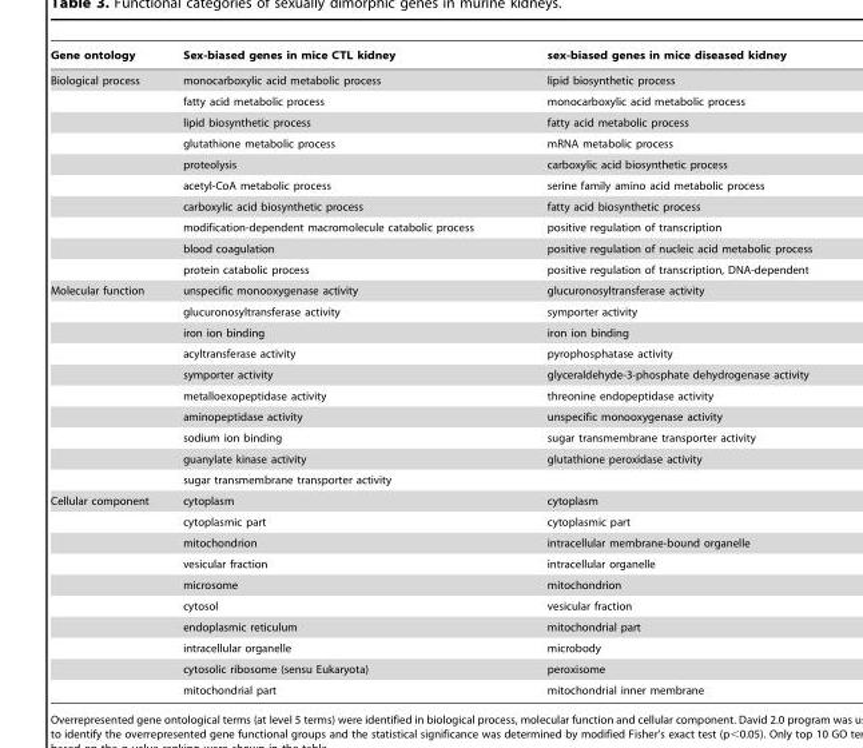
<table><thead><tr><td>Gene ontology</td><td>Sex-biased genes in mice CTL kidney</td><td>sex-biased genes in mice diseased kidney</td></tr></thead><tbody><tr><td rowspan="10">Biological process</td><td>monocarboxylic acid metabolic process</td><td>lipid biosynthetic process</td></tr><tr><td>fatty acid metabolic process</td><td>monocarboxylic acid metabolic process</td></tr><tr><td>lipid biosynthetic process</td><td>fatty acid metabolic process</td></tr><tr><td>glutathione metabolic process</td><td>mRNA metabolic process</td></tr><tr><td>proteolysis</td><td>carboxylic acid biosynthetic process</td></tr><tr><td>acetyl-CoA metabolic process</td><td>serine family amino acid metabolic process</td></tr><tr><td>carboxylic acid biosynthetic process</td><td>fatty acid biosynthetic process</td></tr><tr><td>modification-dependent macromolecule catabolic process</td><td>positive regulation of transcription</td></tr><tr><td>blood coagulation</td><td>positive regulation of nucleic acid metabolic process</td></tr><tr><td>protein catabolic process</td><td>positive regulation of transcription, DNA-dependent</td></tr><tr><td rowspan="10">Molecular function</td><td>unspecific monooxygenase activity</td><td>glucuronosyltransferase activity</td></tr><tr><td>glucuronosyltransferase activity</td><td>symporter activity</td></tr><tr><td>iron ion binding</td><td>iron ion binding</td></tr><tr><td>acyltransferase activity</td><td>pyrophosphatase activity</td></tr><tr><td>symporter activity</td><td>glyceraldehyde-3-phosphate dehydrogenase activity</td></tr><tr><td>metalloexopeptidase activity</td><td>threonine endopeptidase activity</td></tr><tr><td>aminopeptidase activity</td><td>unspecific monooxygenase activity</td></tr><tr><td>sodium ion binding</td><td>sugar transmembrane transporter activity</td></tr><tr><td>guanylate kinase activity</td><td>glutathione peroxidase activity</td></tr><tr><td>sugar transmembrane transporter activity</td><td></td></tr><tr><td rowspan="10">Cellular component</td><td>cytoplasm</td><td>cytoplasm</td></tr><tr><td>cytoplasmic part</td><td>cytoplasmic part</td></tr><tr><td>mitochondrion</td><td>intracellular membrane-bound organelle</td></tr><tr><td>vesicular fraction</td><td>intracellular organelle</td></tr><tr><td>microsome</td><td>mitochondrion</td></tr><tr><td>cytosol</td><td>vesicular fraction</td></tr><tr><td>endoplasmic reticulum</td><td>mitochondrial part</td></tr><tr><td>intracellular organelle</td><td>microbody</td></tr><tr><td>cytosolic ribosome (sensu Eukaryota)</td><td>peroxisome</td></tr><tr><td>mitochondrial part</td><td>mitochondrial inner membrane</td></tr></tbody></table>